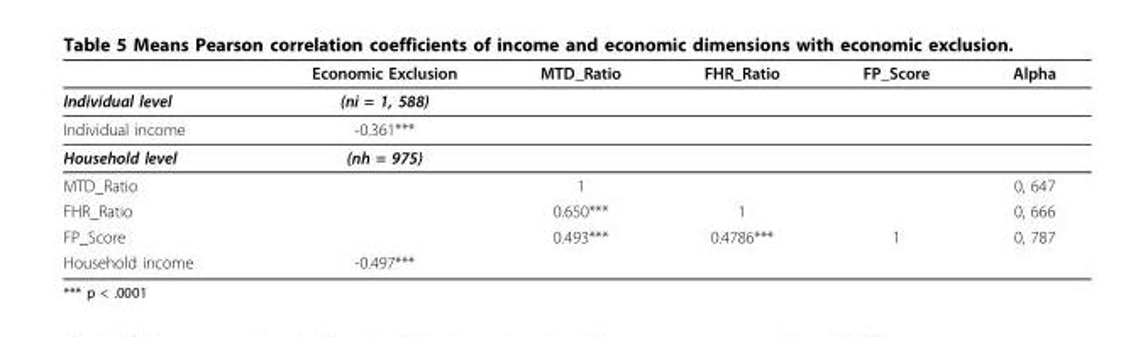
<table><thead><tr><td></td><td>Economic Exclusion</td><td>MTD_Ratio</td><td>FHR_Ratio</td><td>FP_Score</td><td>Alpha</td></tr></thead><tbody><tr><td>Individual level</td><td>(ni = 1, 588)</td><td></td><td></td><td></td><td></td></tr><tr><td>Individual income</td><td>-0.361***</td><td></td><td></td><td></td><td></td></tr><tr><td>Household level</td><td>(nh = 975)</td><td></td><td></td><td></td><td></td></tr><tr><td>MTD_Ratio</td><td></td><td>1</td><td></td><td></td><td>0, 647</td></tr><tr><td>FHR_Ratio</td><td></td><td>0.650***</td><td>1</td><td></td><td>0, 666</td></tr><tr><td>FP_Score</td><td></td><td>0.493***</td><td>0.4786***</td><td>1</td><td>0, 787</td></tr><tr><td>Household income</td><td>-0.497***</td><td></td><td></td><td></td><td></td></tr></tbody></table>